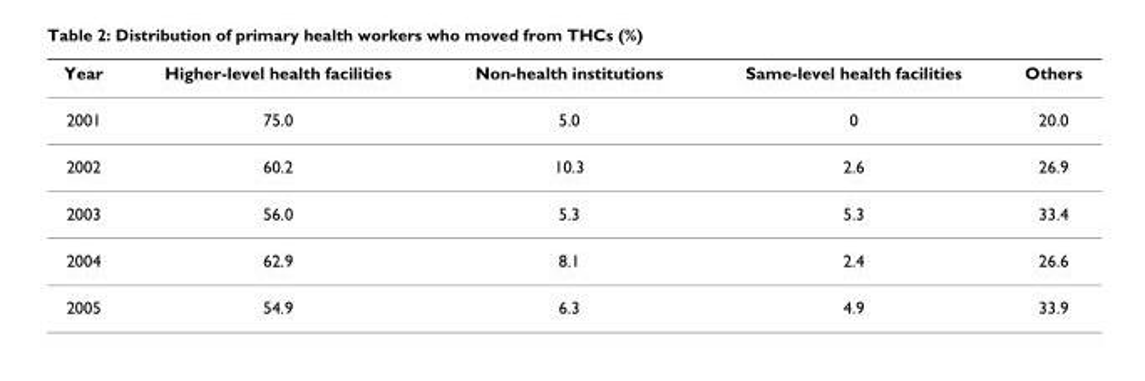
<table><thead><tr><td>Year</td><td>Higher-level health facilities</td><td>Non-health institutions</td><td>Same-level health facilities</td><td>Others</td></tr></thead><tbody><tr><td>2001</td><td>75.0</td><td>5.0</td><td>0</td><td>20.0</td></tr><tr><td>2002</td><td>60.2</td><td>10.3</td><td>2.6</td><td>26.9</td></tr><tr><td>2003</td><td>56.0</td><td>5.3</td><td>5.3</td><td>33.4</td></tr><tr><td>2004</td><td>62.9</td><td>8.1</td><td>2.4</td><td>26.6</td></tr><tr><td>2005</td><td>54.9</td><td>6.3</td><td>4.9</td><td>33.9</td></tr></tbody></table>